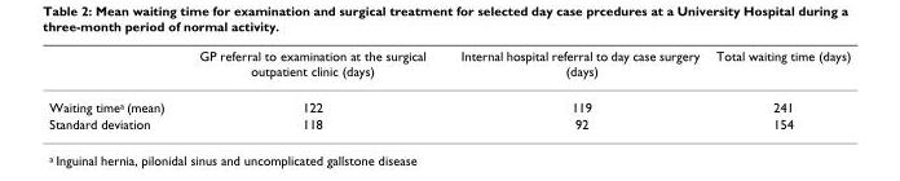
<table><thead><tr><td></td><td>GP referral to examination at the surgical outpatient clinic (days)</td><td>Internal hospital referral to day case surgery (days)</td><td>Total waiting time (days)</td></tr></thead><tbody><tr><td>Waiting time<sup>a</sup> (mean)</td><td>122</td><td>119</td><td>241</td></tr><tr><td>Standard deviation</td><td>118</td><td>92</td><td>154</td></tr></tbody></table>